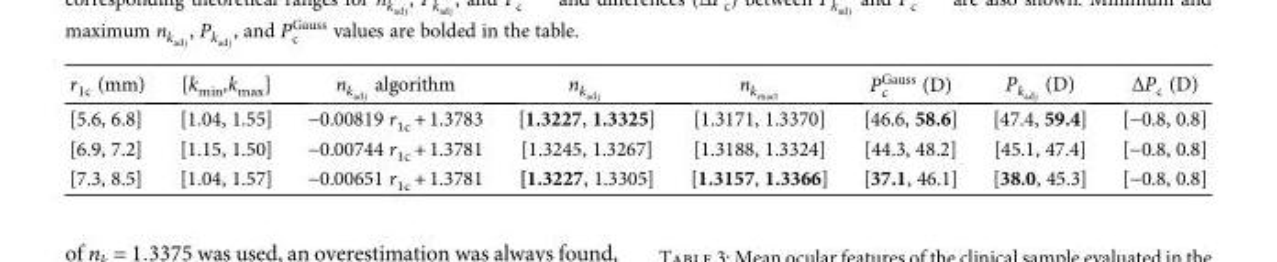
<table><thead><tr><td>r<sub>1c</sub> (mm)</td><td>[k<sub>min</sub>,k<sub>max</sub>]</td><td>nkadj algorithm</td><td>nkadj</td><td>nkexact</td><td>PGauss c (D)</td><td>Pkadj (D)</td><td>ΔP<sub>c</sub> (D)</td></tr></thead><tbody><tr><td>[5.6, 6.8]</td><td>[1.04, 1.55]</td><td>−0.00819 r<sub>1c</sub> + 1.3783</td><td>[1.3227, 1.3325]</td><td>[1.3171, 1.3370]</td><td>[46.6, 58.6]</td><td>[47.4, 59.4]</td><td>[−0.8, 0.8]</td></tr><tr><td>[6.9, 7.2]</td><td>[1.15, 1.50]</td><td>−0.00744 r<sub>1c</sub> + 1.3781</td><td>[1.3245, 1.3267]</td><td>[1.3188, 1.3324]</td><td>[44.3, 48.2]</td><td>[45.1, 47.4]</td><td>[−0.8, 0.8]</td></tr><tr><td>[7.3, 8.5]</td><td>[1.04, 1.57]</td><td>−0.00651 r<sub>1c</sub> + 1.3781</td><td>[1.3227, 1.3305]</td><td>[1.3157, 1.3366]</td><td>[37.1, 46.1]</td><td>[38.0, 45.3]</td><td>[−0.8, 0.8]</td></tr></tbody></table>